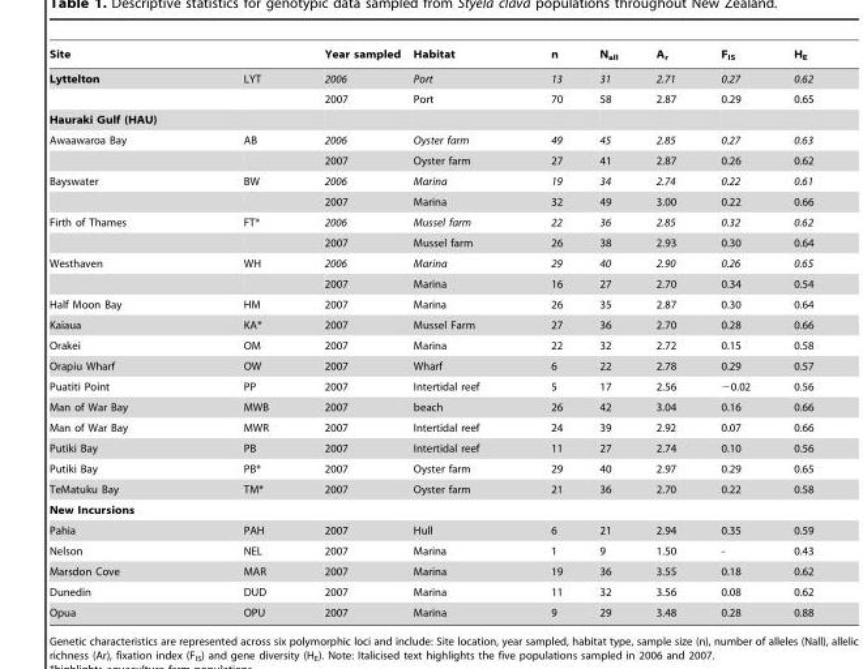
<table><thead><tr><td>Site</td><td></td><td>Year sampled</td><td>Habitat</td><td>n</td><td>N<sub>all</sub></td><td>A<sub>r</sub></td><td>F<sub>IS</sub></td><td>H<sub>E</sub></td></tr></thead><tbody><tr><td rowspan="2">Lyttelton</td><td>LYT</td><td>2006</td><td>Port</td><td>13</td><td>31</td><td>2.71</td><td>0.27</td><td>0.62</td></tr><tr><td></td><td>2007</td><td>Port</td><td>70</td><td>58</td><td>2.87</td><td>0.29</td><td>0.65</td></tr><tr><td colspan="9">Hauraki Gulf (HAU)</td></tr><tr><td rowspan="2">Awaawaroa Bay</td><td>AB</td><td>2006</td><td>Oyster farm</td><td>49</td><td>45</td><td>2.85</td><td>0.27</td><td>0.63</td></tr><tr><td></td><td>2007</td><td>Oyster farm</td><td>27</td><td>41</td><td>2.87</td><td>0.26</td><td>0.62</td></tr><tr><td rowspan="2">Bayswater</td><td>BW</td><td>2006</td><td>Marina</td><td>19</td><td>34</td><td>2.74</td><td>0.22</td><td>0.61</td></tr><tr><td></td><td>2007</td><td>Marina</td><td>32</td><td>49</td><td>3.00</td><td>0.22</td><td>0.66</td></tr><tr><td rowspan="2">Firth of Thames</td><td>FT*</td><td>2006</td><td>Mussel farm</td><td>22</td><td>36</td><td>2.85</td><td>0.32</td><td>0.62</td></tr><tr><td></td><td>2007</td><td>Mussel farm</td><td>26</td><td>38</td><td>2.93</td><td>0.30</td><td>0.64</td></tr><tr><td rowspan="2">Westhaven</td><td>WH</td><td>2006</td><td>Marina</td><td>29</td><td>40</td><td>2.90</td><td>0.26</td><td>0.65</td></tr><tr><td></td><td>2007</td><td>Marina</td><td>16</td><td>27</td><td>2.70</td><td>0.34</td><td>0.54</td></tr><tr><td>Half Moon Bay</td><td>HM</td><td>2007</td><td>Marina</td><td>26</td><td>35</td><td>2.87</td><td>0.30</td><td>0.64</td></tr><tr><td>Kaiaua</td><td>KA*</td><td>2007</td><td>Mussel Farm</td><td>27</td><td>36</td><td>2.70</td><td>0.28</td><td>0.66</td></tr><tr><td>Orakei</td><td>OM</td><td>2007</td><td>Marina</td><td>22</td><td>32</td><td>2.72</td><td>0.15</td><td>0.58</td></tr><tr><td>Orapiu Wharf</td><td>OW</td><td>2007</td><td>Wharf</td><td>6</td><td>22</td><td>2.78</td><td>0.29</td><td>0.57</td></tr><tr><td>Puatiti Point</td><td>PP</td><td>2007</td><td>Intertidal reef</td><td>5</td><td>17</td><td>2.56</td><td>−0.02</td><td>0.56</td></tr><tr><td>Man of War Bay</td><td>MWB</td><td>2007</td><td>beach</td><td>26</td><td>42</td><td>3.04</td><td>0.16</td><td>0.66</td></tr><tr><td>Man of War Bay</td><td>MWR</td><td>2007</td><td>Intertidal reef</td><td>24</td><td>39</td><td>2.92</td><td>0.07</td><td>0.66</td></tr><tr><td>Putiki Bay</td><td>PB</td><td>2007</td><td>Intertidal reef</td><td>11</td><td>27</td><td>2.74</td><td>0.10</td><td>0.56</td></tr><tr><td>Putiki Bay</td><td>PB*</td><td>2007</td><td>Oyster farm</td><td>29</td><td>40</td><td>2.97</td><td>0.29</td><td>0.65</td></tr><tr><td>TeMatuku Bay</td><td>TM*</td><td>2007</td><td>Oyster farm</td><td>21</td><td>36</td><td>2.70</td><td>0.22</td><td>0.58</td></tr><tr><td colspan="9">New Incursions</td></tr><tr><td>Pahia</td><td>PAH</td><td>2007</td><td>Hull</td><td>6</td><td>21</td><td>2.94</td><td>0.35</td><td>0.59</td></tr><tr><td>Nelson</td><td>NEL</td><td>2007</td><td>Marina</td><td>1</td><td>9</td><td>1.50</td><td>-</td><td>0.43</td></tr><tr><td>Marsdon Cove</td><td>MAR</td><td>2007</td><td>Marina</td><td>19</td><td>36</td><td>3.55</td><td>0.18</td><td>0.62</td></tr><tr><td>Dunedin</td><td>DUD</td><td>2007</td><td>Marina</td><td>11</td><td>32</td><td>3.56</td><td>0.08</td><td>0.62</td></tr><tr><td>Opua</td><td>OPU</td><td>2007</td><td>Marina</td><td>9</td><td>29</td><td>3.48</td><td>0.28</td><td>0.88</td></tr></tbody></table>